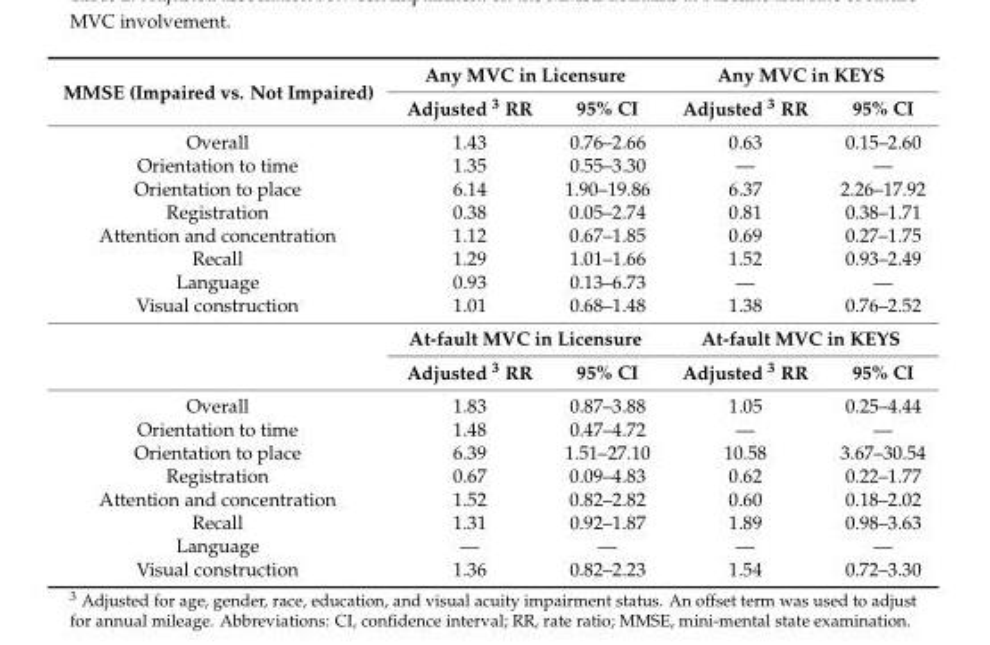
<table><tbody><tr><td rowspan="2">MMSE (Impaired vs. Not Impaired)</td><td colspan="2">Any MVC in Licensure</td><td colspan="2">Any MVC in KEYS</td></tr><tr><td>Adjusted <sup>3</sup> RR</td><td>95% CI</td><td>Adjusted <sup>3</sup> RR</td><td>95% CI</td></tr><tr><td>Overall</td><td>1.43</td><td>0.76–2.66</td><td>0.63</td><td>0.15–2.60</td></tr><tr><td>Orientation to time</td><td>1.35</td><td>0.55–3.30</td><td>—</td><td>—</td></tr><tr><td>Orientation to place</td><td>6.14</td><td>1.90–19.86</td><td>6.37</td><td>2.26–17.92</td></tr><tr><td>Registration</td><td>0.38</td><td>0.05–2.74</td><td>0.81</td><td>0.38–1.71</td></tr><tr><td>Attention and concentration</td><td>1.12</td><td>0.67–1.85</td><td>0.69</td><td>0.27–1.75</td></tr><tr><td>Recall</td><td>1.29</td><td>1.01–1.66</td><td>1.52</td><td>0.93–2.49</td></tr><tr><td>Language</td><td>0.93</td><td>0.13–6.73</td><td>—</td><td>—</td></tr><tr><td rowspan="3">Visual construction</td><td>1.01</td><td>0.68–1.48</td><td>1.38</td><td>0.76–2.52</td></tr><tr><td colspan="2">At-fault MVC in Licensure</td><td colspan="2">At-fault MVC in KEYS</td></tr><tr><td>Adjusted <sup>3</sup> RR</td><td>95% CI</td><td>Adjusted <sup>3</sup> RR</td><td>95% CI</td></tr><tr><td>Overall</td><td>1.83</td><td>0.87–3.88</td><td>1.05</td><td>0.25–4.44</td></tr><tr><td>Orientation to time</td><td>1.48</td><td>0.47–4.72</td><td>—</td><td>—</td></tr><tr><td>Orientation to place</td><td>6.39</td><td>1.51–27.10</td><td>10.58</td><td>3.67–30.54</td></tr><tr><td>Registration</td><td>0.67</td><td>0.09–4.83</td><td>0.62</td><td>0.22–1.77</td></tr><tr><td>Attention and concentration</td><td>1.52</td><td>0.82–2.82</td><td>0.60</td><td>0.18–2.02</td></tr><tr><td>Recall</td><td>1.31</td><td>0.92–1.87</td><td>1.89</td><td>0.98–3.63</td></tr><tr><td>Language</td><td>—</td><td>—</td><td>—</td><td>—</td></tr><tr><td>Visual construction</td><td>1.36</td><td>0.82–2.23</td><td>1.54</td><td>0.72–3.30</td></tr></tbody></table>